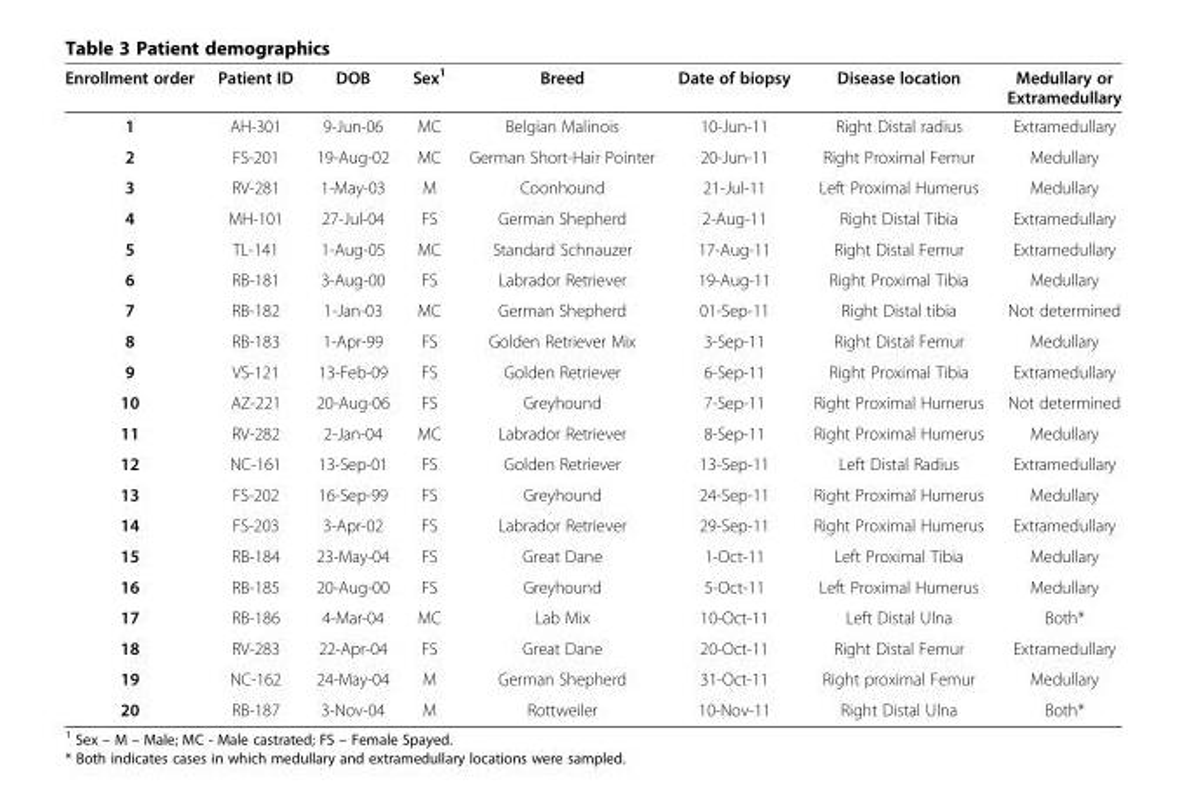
<table><thead><tr><td>Enrollment order</td><td>Patient ID</td><td>DOB</td><td>Sex<sup>1</sup></td><td>Breed</td><td>Date of biopsy</td><td>Disease location</td><td>Medullary or Extramedullary</td></tr></thead><tbody><tr><td>1</td><td>AH-301</td><td>9-Jun-06</td><td>MC</td><td>Belgian Malinois</td><td>10-Jun-11</td><td>Right Distal radius</td><td>Extramedullary</td></tr><tr><td>2</td><td>FS-201</td><td>19-Aug-02</td><td>MC</td><td>German Short-Hair Pointer</td><td>20-Jun-11</td><td>Right Proximal Femur</td><td>Medullary</td></tr><tr><td>3</td><td>RV-281</td><td>1-May-03</td><td>M</td><td>Coonhound</td><td>21-Jul-11</td><td>Left Proximal Humerus</td><td>Medullary</td></tr><tr><td>4</td><td>MH-101</td><td>27-Jul-04</td><td>FS</td><td>German Shepherd</td><td>2-Aug-11</td><td>Right Distal Tibia</td><td>Extramedullary</td></tr><tr><td>5</td><td>TL-141</td><td>1-Aug-05</td><td>MC</td><td>Standard Schnauzer</td><td>17-Aug-11</td><td>Right Distal Femur</td><td>Extramedullary</td></tr><tr><td>6</td><td>RB-181</td><td>3-Aug-00</td><td>FS</td><td>Labrador Retriever</td><td>19-Aug-11</td><td>Right Proximal Tibia</td><td>Medullary</td></tr><tr><td>7</td><td>RB-182</td><td>1-Jan-03</td><td>MC</td><td>German Shepherd</td><td>01-Sep-11</td><td>Right Distal tibia</td><td>Not determined</td></tr><tr><td>8</td><td>RB-183</td><td>1-Apr-99</td><td>FS</td><td>Golden Retriever Mix</td><td>3-Sep-11</td><td>Right Distal Femur</td><td>Medullary</td></tr><tr><td>9</td><td>VS-121</td><td>13-Feb-09</td><td>FS</td><td>Golden Retriever</td><td>6-Sep-11</td><td>Right Proximal Tibia</td><td>Extramedullary</td></tr><tr><td>10</td><td>AZ-221</td><td>20-Aug-06</td><td>FS</td><td>Greyhound</td><td>7-Sep-11</td><td>Right Proximal Humerus</td><td>Not determined</td></tr><tr><td>11</td><td>RV-282</td><td>2-Jan-04</td><td>MC</td><td>Labrador Retriever</td><td>8-Sep-11</td><td>Right Proximal Humerus</td><td>Medullary</td></tr><tr><td>12</td><td>NC-161</td><td>13-Sep-01</td><td>FS</td><td>Golden Retriever</td><td>13-Sep-11</td><td>Left Distal Radius</td><td>Extramedullary</td></tr><tr><td>13</td><td>FS-202</td><td>16-Sep-99</td><td>FS</td><td>Greyhound</td><td>24-Sep-11</td><td>Right Proximal Humerus</td><td>Medullary</td></tr><tr><td>14</td><td>FS-203</td><td>3-Apr-02</td><td>FS</td><td>Labrador Retriever</td><td>29-Sep-11</td><td>Right Proximal Humerus</td><td>Extramedullary</td></tr><tr><td>15</td><td>RB-184</td><td>23-May-04</td><td>FS</td><td>Great Dane</td><td>1-Oct-11</td><td>Left Proximal Tibia</td><td>Medullary</td></tr><tr><td>16</td><td>RB-185</td><td>20-Aug-00</td><td>FS</td><td>Greyhound</td><td>5-Oct-11</td><td>Left Proximal Humerus</td><td>Medullary</td></tr><tr><td>17</td><td>RB-186</td><td>4-Mar-04</td><td>MC</td><td>Lab Mix</td><td>10-Oct-11</td><td>Left Distal Ulna</td><td>Both*</td></tr><tr><td>18</td><td>RV-283</td><td>22-Apr-04</td><td>FS</td><td>Great Dane</td><td>20-Oct-11</td><td>Right Distal Femur</td><td>Extramedullary</td></tr><tr><td>19</td><td>NC-162</td><td>24-May-04</td><td>M</td><td>German Shepherd</td><td>31-Oct-11</td><td>Right proximal Femur</td><td>Medullary</td></tr><tr><td>20</td><td>RB-187</td><td>3-Nov-04</td><td>M</td><td>Rottweiler</td><td>10-Nov-11</td><td>Right Distal Ulna</td><td>Both*</td></tr></tbody></table>